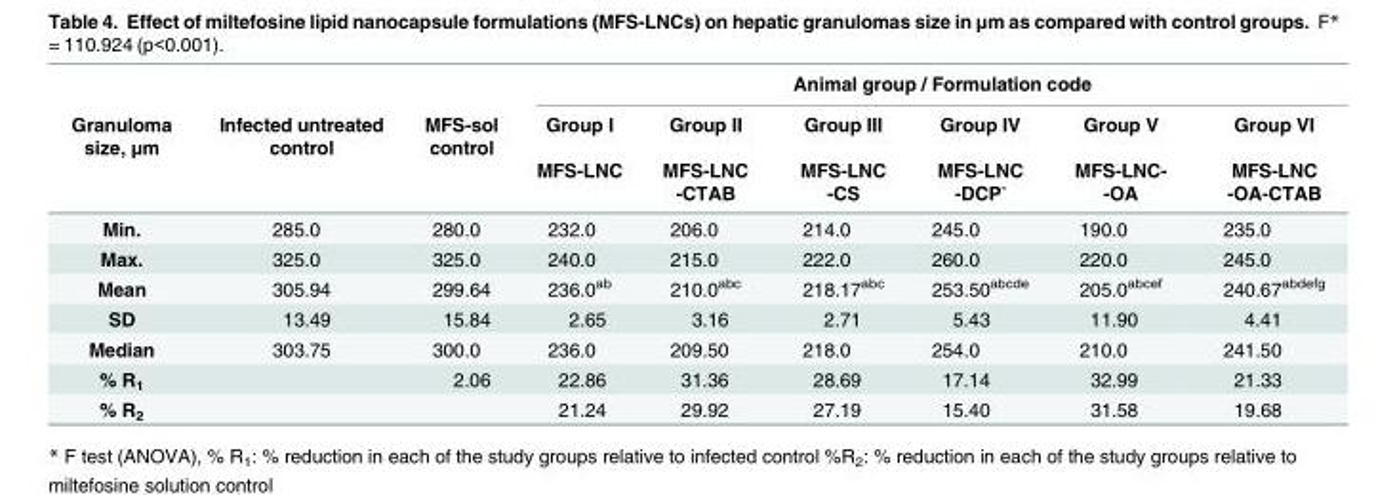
<table><thead><tr><td rowspan="3">Granuloma size, μm</td><td rowspan="3">Infected untreated control</td><td rowspan="3">MFS-sol control</td><td colspan="6">Animal group / Formulation code</td></tr><tr><td rowspan="2">Group I MFS-LNC</td><td rowspan="2">Group II MFS-LNC -CTAB</td><td rowspan="2">Group III MFS-LNC -CS</td><td rowspan="2">Group IV MFS-LNC -DCP<sup>-</sup></td><td rowspan="2">Group V MFS-LNC- -OA</td><td rowspan="2">Group VI MFS-LNC -OA-CTAB</td></tr><tr></tr></thead><tbody><tr><td>Min.</td><td>285.0</td><td>280.0</td><td>232.0</td><td>206.0</td><td>214.0</td><td>245.0</td><td>190.0</td><td>235.0</td></tr><tr><td>Max.</td><td>325.0</td><td>325.0</td><td>240.0</td><td>215.0</td><td>222.0</td><td>260.0</td><td>220.0</td><td>245.0</td></tr><tr><td>Mean</td><td>305.94</td><td>299.64</td><td>236.0<sup>ab</sup></td><td>210.0<sup>abc</sup></td><td>218.17<sup>abc</sup></td><td>253.50<sup>abcde</sup></td><td>205.0<sup>abcef</sup></td><td>240.67<sup>abdefg</sup></td></tr><tr><td>SD</td><td>13.49</td><td>15.84</td><td>2.65</td><td>3.16</td><td>2.71</td><td>5.43</td><td>11.90</td><td>4.41</td></tr><tr><td>Median</td><td>303.75</td><td>300.0</td><td>236.0</td><td>209.50</td><td>218.0</td><td>254.0</td><td>210.0</td><td>241.50</td></tr><tr><td>% R<sub>1</sub></td><td></td><td>2.06</td><td>22.86</td><td>31.36</td><td>28.69</td><td>17.14</td><td>32.99</td><td>21.33</td></tr><tr><td>% R<sub>2</sub></td><td></td><td></td><td>21.24</td><td>29.92</td><td>27.19</td><td>15.40</td><td>31.58</td><td>19.68</td></tr></tbody></table>